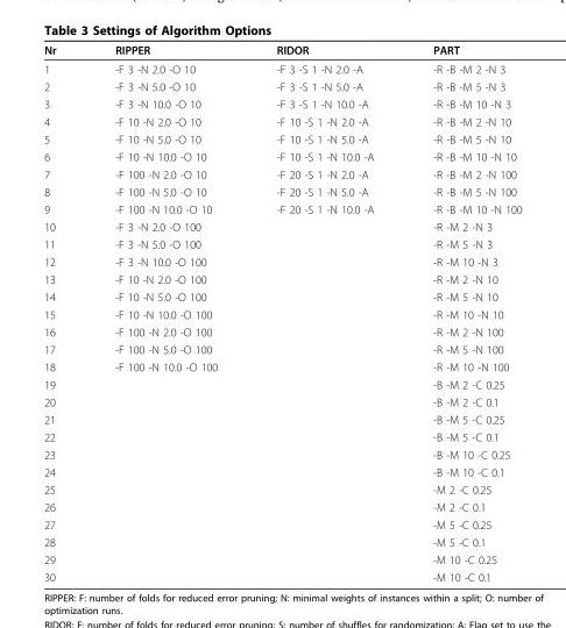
<table><thead><tr><td>Nr</td><td>RIPPER</td><td>RIDOR</td><td>PART</td></tr></thead><tbody><tr><td>1</td><td>-F 3 -N 2.0 -O 10</td><td>-F 3 -S 1 -N 2.0 -A</td><td>-R -B -M 2 -N 3</td></tr><tr><td>2</td><td>-F 3 -N 5.0 -O 10</td><td>-F 3 -S 1 -N 5.0 -A</td><td>-R -B -M 5 -N 3</td></tr><tr><td>3</td><td>-F 3 -N 10.0 -O 10</td><td>-F 3 -S 1 -N 10.0 -A</td><td>-R -B -M 10 -N 3</td></tr><tr><td>4</td><td>-F 10 -N 2.0 -O 10</td><td>-F 10 -S 1 -N 2.0 -A</td><td>-R -B -M 2 -N 10</td></tr><tr><td>5</td><td>-F 10 -N 5.0 -O 10</td><td>-F 10 -S 1 -N 5.0 -A</td><td>-R -B -M 5 -N 10</td></tr><tr><td>6</td><td>-F 10 -N 10.0 -O 10</td><td>-F 10 -S 1 -N 10.0 -A</td><td>-R -B -M 10 -N 10</td></tr><tr><td>7</td><td>-F 100 -N 2.0 -O 10</td><td>-F 20 -S 1 -N 2.0 -A</td><td>-R -B -M 2 -N 100</td></tr><tr><td>8</td><td>-F 100 -N 5.0 -O 10</td><td>-F 20 -S 1 -N 5.0 -A</td><td>-R -B -M 5 -N 100</td></tr><tr><td>9</td><td>-F 100 -N 10.0 -O 10</td><td>-F 20 -S 1 -N 10.0 -A</td><td>-R -B -M 10 -N 100</td></tr><tr><td>10</td><td>-F 3 -N 2.0 -O 100</td><td></td><td>-R -M 2 -N 3</td></tr><tr><td>11</td><td>-F 3 -N 5.0 -O 100</td><td></td><td>-R -M 5 -N 3</td></tr><tr><td>12</td><td>-F 3 -N 10.0 -O 100</td><td></td><td>-R -M 10 -N 3</td></tr><tr><td>13</td><td>-F 10 -N 2.0 -O 100</td><td></td><td>-R -M 2 -N 10</td></tr><tr><td>14</td><td>-F 10 -N 5.0 -O 100</td><td></td><td>-R -M 5 -N 10</td></tr><tr><td>15</td><td>-F 10 -N 10.0 -O 100</td><td></td><td>-R -M 10 -N 10</td></tr><tr><td>16</td><td>-F 100 -N 2.0 -O 100</td><td></td><td>-R -M 2 -N 100</td></tr><tr><td>17</td><td>-F 100 -N 5.0 -O 100</td><td></td><td>-R -M 5 -N 100</td></tr><tr><td>18</td><td>-F 100 -N 10.0 -O 100</td><td></td><td>-R -M 10 -N 100</td></tr><tr><td>19</td><td></td><td></td><td>-B -M 2 -C 0.25</td></tr><tr><td>20</td><td></td><td></td><td>-B -M 2 -C 0.1</td></tr><tr><td>21</td><td></td><td></td><td>-B -M 5 -C 0.25</td></tr><tr><td>22</td><td></td><td></td><td>-B -M 5 -C 0.1</td></tr><tr><td>23</td><td></td><td></td><td>-B -M 10 -C 0.25</td></tr><tr><td>24</td><td></td><td></td><td>-B -M 10 -C 0.1</td></tr><tr><td>25</td><td></td><td></td><td>-M 2 -C 0.25</td></tr><tr><td>26</td><td></td><td></td><td>-M 2 -C 0.1</td></tr><tr><td>27</td><td></td><td></td><td>-M 5 -C 0.25</td></tr><tr><td>28</td><td></td><td></td><td>-M 5 -C 0.1</td></tr><tr><td>29</td><td></td><td></td><td>-M 10 -C 0.25</td></tr><tr><td>30</td><td></td><td></td><td>-M 10 -C 0.1</td></tr></tbody></table>